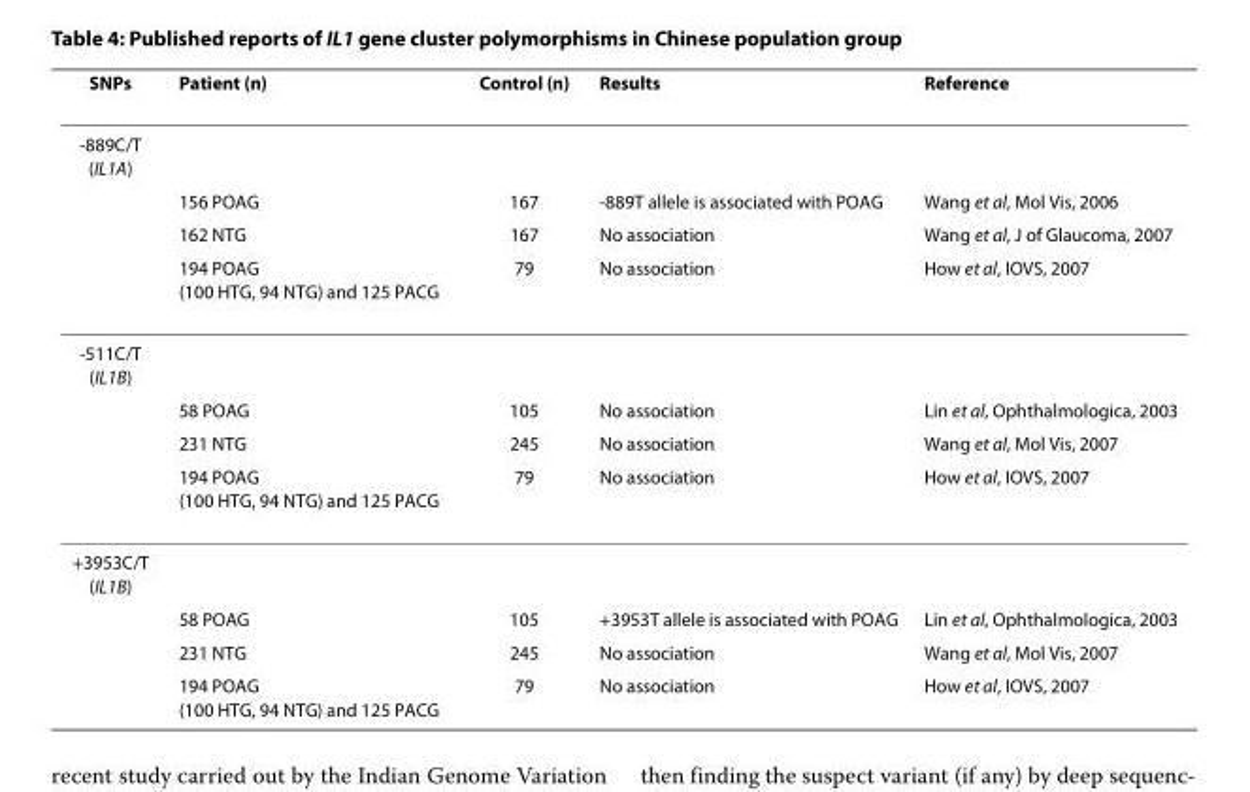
<table><thead><tr><td>SNPs</td><td>Patient (n)</td><td>Control (n)</td><td>Results</td><td>Reference</td></tr></thead><tbody><tr><td colspan="5">-889C/T (IL1A)</td></tr><tr><td></td><td>156 POAG</td><td>167</td><td>-889T allele is associated with POAG</td><td>Wang et al, Mol Vis, 2006</td></tr><tr><td></td><td>162 NTG</td><td>167</td><td>No association</td><td>Wang et al, J of Glaucoma, 2007</td></tr><tr><td></td><td>194 POAG (100 HTG, 94 NTG) and 125 PACG</td><td>79</td><td>No association</td><td>How et al, IOVS, 2007</td></tr><tr><td colspan="5">-511C/T (IL1B)</td></tr><tr><td></td><td>58 POAG</td><td>105</td><td>No association</td><td>Lin et al, Ophthalmologica, 2003</td></tr><tr><td></td><td>231 NTG</td><td>245</td><td>No association</td><td>Wang et al, Mol Vis, 2007</td></tr><tr><td></td><td>194 POAG (100 HTG, 94 NTG) and 125 PACG</td><td>79</td><td>No association</td><td>How et al, IOVS, 2007</td></tr><tr><td colspan="5">+3953C/T (IL1B)</td></tr><tr><td></td><td>58 POAG</td><td>105</td><td>+3953T allele is associated with POAG</td><td>Lin et al, Ophthalmologica, 2003</td></tr><tr><td></td><td>231 NTG</td><td>245</td><td>No association</td><td>Wang et al, Mol Vis, 2007</td></tr><tr><td></td><td>194 POAG (100 HTG, 94 NTG) and 125 PACG</td><td>79</td><td>No association</td><td>How et al, IOVS, 2007</td></tr></tbody></table>